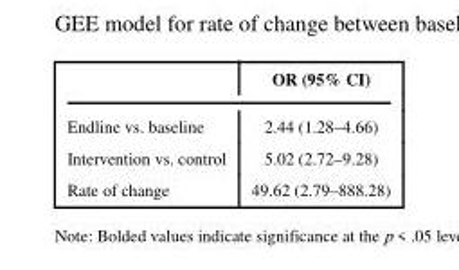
<table><thead><tr><td></td><td>OR (95% CI)</td></tr></thead><tbody><tr><td>Endline vs. baseline</td><td>2.44 (1.28–4.66)</td></tr><tr><td>Intervention vs. control</td><td>5.02 (2.72–9.28)</td></tr><tr><td>Rate of change</td><td>49.62 (2.79–888.28)</td></tr></tbody></table>